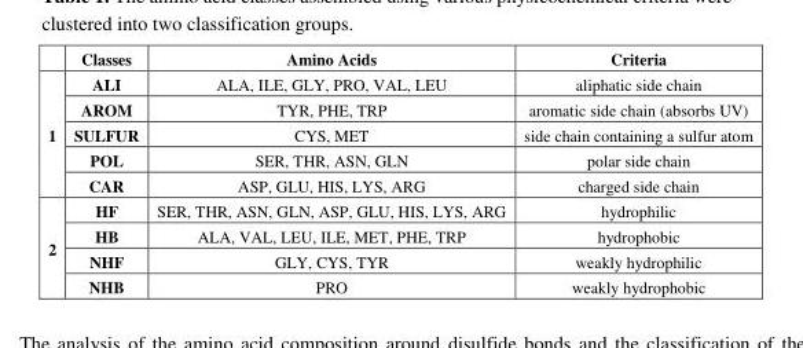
<table><thead><tr><td></td><td>Classes</td><td>Amino Acids</td><td>Criteria</td></tr></thead><tbody><tr><td rowspan="5">1</td><td>ALI</td><td>ALA, ILE, GLY, PRO, VAL, LEU</td><td>aliphatic side chain</td></tr><tr><td>AROM</td><td>TYR, PHE, TRP</td><td>aromatic side chain (absorbs UV)</td></tr><tr><td>SULFUR</td><td>CYS, MET</td><td>side chain containing a sulfur atom</td></tr><tr><td>POL</td><td>SER, THR, ASN, GLN</td><td>polar side chain</td></tr><tr><td>CAR</td><td>ASP, GLU, HIS, LYS, ARG</td><td>charged side chain</td></tr><tr><td rowspan="4">2</td><td>HF</td><td>SER, THR, ASN, GLN, ASP, GLU, HIS, LYS, ARG</td><td>hydrophilic</td></tr><tr><td>HB</td><td>ALA, VAL, LEU, ILE, MET, PHE, TRP</td><td>hydrophobic</td></tr><tr><td>NHF</td><td>GLY, CYS, TYR</td><td>weakly hydrophilic</td></tr><tr><td>NHB</td><td>PRO</td><td>weakly hydrophobic</td></tr></tbody></table>